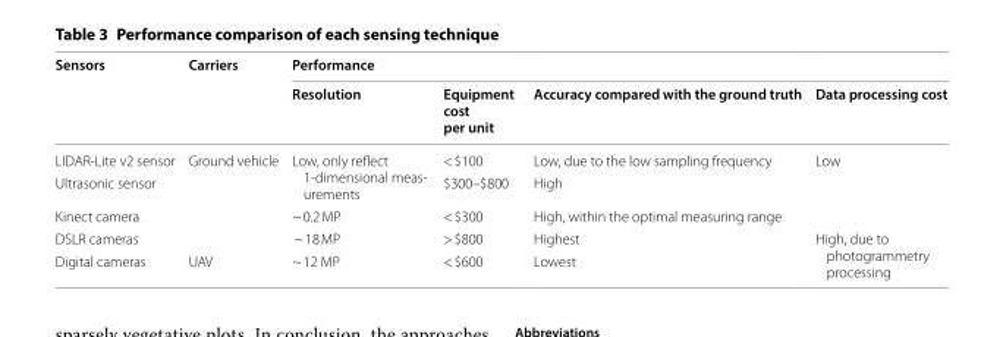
<table><thead><tr><td rowspan="2">Sensors</td><td rowspan="2">Carriers</td><td colspan="4">Performance</td></tr><tr><td>Resolution</td><td>Equipment cost per unit</td><td>Accuracy compared with the ground truth</td><td>Data processing cost</td></tr></thead><tbody><tr><td>LIDAR-Lite v2 sensor</td><td rowspan="4">Ground vehicle</td><td rowspan="2">Low, only reflect 1-dimensional meas- urements</td><td>&lt; $100</td><td>Low, due to the low sampling frequency</td><td rowspan="3">Low</td></tr><tr><td>Ultrasonic sensor</td><td>$300–$800</td><td>High</td></tr><tr><td>Kinect camera</td><td>~ 0.2 MP</td><td>&lt; $300</td><td>High, within the optimal measuring range</td></tr><tr><td>DSLR cameras</td><td>~ 18 MP</td><td>&gt; $800</td><td>Highest</td><td rowspan="2">High, due to photogrammetry processing</td></tr><tr><td>Digital cameras</td><td>UAV</td><td>~ 12 MP</td><td>&lt; $600</td><td>Lowest</td></tr></tbody></table>